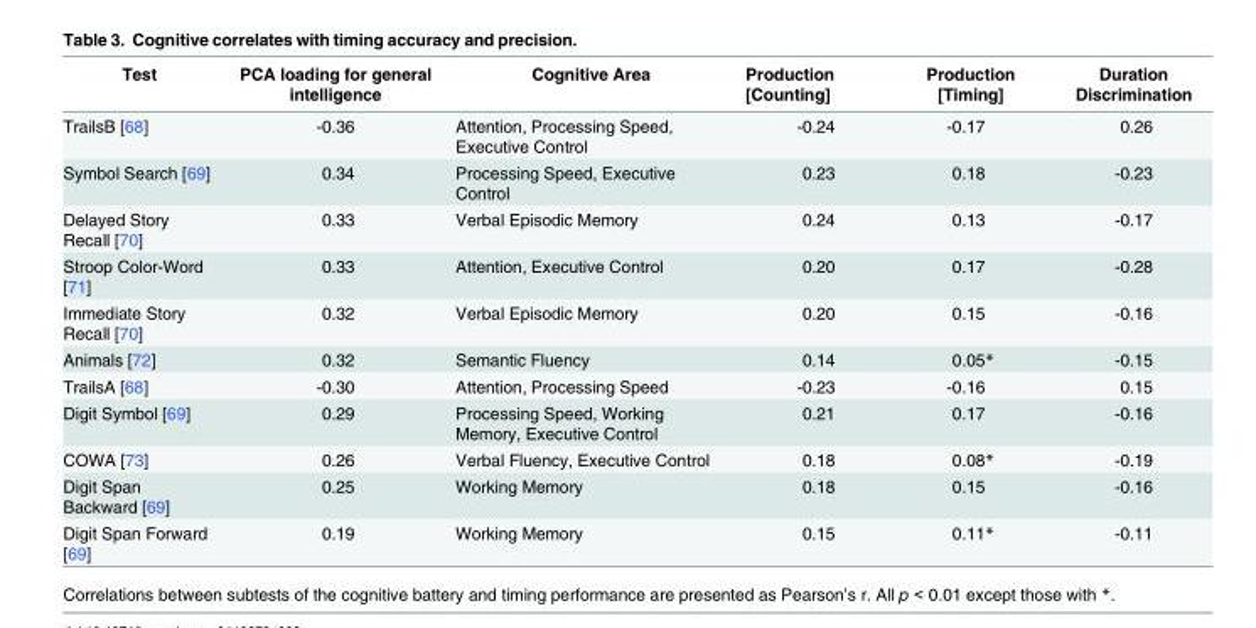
<table><thead><tr><td>Test</td><td>PCA loading for general intelligence</td><td>Cognitive Area</td><td>Production [Counting]</td><td>Production [Timing]</td><td>Duration Discrimination</td></tr></thead><tbody><tr><td>TrailsB [68]</td><td>-0.36</td><td>Attention, Processing Speed, Executive Control</td><td>-0.24</td><td>-0.17</td><td>0.26</td></tr><tr><td>Symbol Search [69]</td><td>0.34</td><td>Processing Speed, Executive Control</td><td>0.23</td><td>0.18</td><td>-0.23</td></tr><tr><td>Delayed Story Recall [70]</td><td>0.33</td><td>Verbal Episodic Memory</td><td>0.24</td><td>0.13</td><td>-0.17</td></tr><tr><td>Stroop Color-Word [71]</td><td>0.33</td><td>Attention, Executive Control</td><td>0.20</td><td>0.17</td><td>-0.28</td></tr><tr><td>Immediate Story Recall [70]</td><td>0.32</td><td>Verbal Episodic Memory</td><td>0.20</td><td>0.15</td><td>-0.16</td></tr><tr><td>Animals [72]</td><td>0.32</td><td>Semantic Fluency</td><td>0.14</td><td>0.05*</td><td>-0.15</td></tr><tr><td>TrailsA [68]</td><td>-0.30</td><td>Attention, Processing Speed</td><td>-0.23</td><td>-0.16</td><td>0.15</td></tr><tr><td>Digit Symbol [69]</td><td>0.29</td><td>Processing Speed, Working Memory, Executive Control</td><td>0.21</td><td>0.17</td><td>-0.16</td></tr><tr><td>COWA [73]</td><td>0.26</td><td>Verbal Fluency, Executive Control</td><td>0.18</td><td>0.08*</td><td>-0.19</td></tr><tr><td>Digit Span Backward [69]</td><td>0.25</td><td>Working Memory</td><td>0.18</td><td>0.15</td><td>-0.16</td></tr><tr><td>Digit Span Forward [69]</td><td>0.19</td><td>Working Memory</td><td>0.15</td><td>0.11*</td><td>-0.11</td></tr></tbody></table>